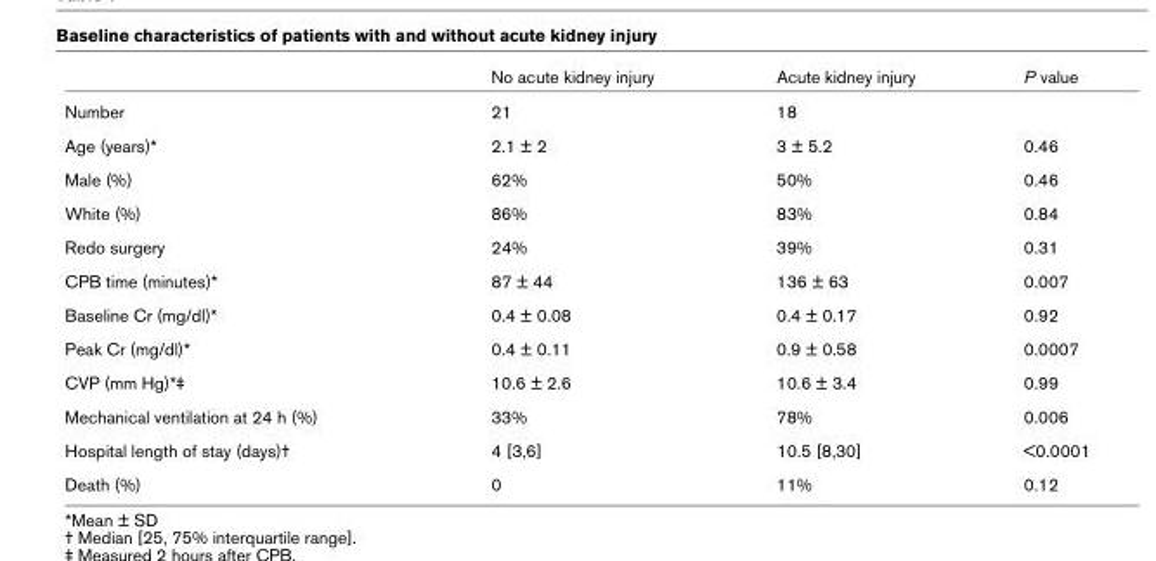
<table><thead><tr><td></td><td>No acute kidney injury</td><td>Acute kidney injury</td><td>P value</td></tr></thead><tbody><tr><td>Number</td><td>21</td><td>18</td><td></td></tr><tr><td>Age (years)*</td><td>2.1 ± 2</td><td>3 ± 5.2</td><td>0.46</td></tr><tr><td>Male (%)</td><td>62%</td><td>50%</td><td>0.46</td></tr><tr><td>White (%)</td><td>86%</td><td>83%</td><td>0.84</td></tr><tr><td>Redo surgery</td><td>24%</td><td>39%</td><td>0.31</td></tr><tr><td>CPB time (minutes)*</td><td>87 ± 44</td><td>136 ± 63</td><td>0.007</td></tr><tr><td>Baseline Cr (mg/dl)*</td><td>0.4 ± 0.08</td><td>0.4 ± 0.17</td><td>0.92</td></tr><tr><td>Peak Cr (mg/dl)*</td><td>0.4 ± 0.11</td><td>0.9 ± 0.58</td><td>0.0007</td></tr><tr><td>CVP (mm Hg)*‡</td><td>10.6 ± 2.6</td><td>10.6 ± 3.4</td><td>0.99</td></tr><tr><td>Mechanical ventilation at 24 h (%)</td><td>33%</td><td>78%</td><td>0.006</td></tr><tr><td>Hospital length of stay (days)†</td><td>4 [3,6]</td><td>10.5 [8,30]</td><td>&lt;0.0001</td></tr><tr><td>Death (%)</td><td>0</td><td>11%</td><td>0.12</td></tr></tbody></table>